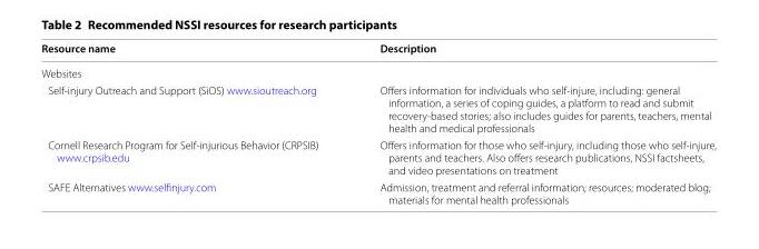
<table><thead><tr><td>Resource name</td><td>Description</td></tr></thead><tbody><tr><td colspan="2">Websites</td></tr><tr><td>Self‑injury Outreach and Support (SiOS) www.sioutreach.org</td><td>Offers information for individuals who self‑injure, including: general information, a series of coping guides, a platform to read and submit recovery‑based stories; also includes guides for parents, teachers, mental health and medical professionals</td></tr><tr><td>Cornell Research Program for Self‑injurious Behavior (CRPSIB) www.crpsib.edu</td><td>Offers information for those who self‑injury, including those who self‑injure, parents and teachers. Also offers research publications, NSSI factsheets, and video presentations on treatment</td></tr><tr><td>SAFE Alternatives www.selfinjury.com</td><td>Admission, treatment and referral information; resources; moderated blog; materials for mental health professionals</td></tr></tbody></table>